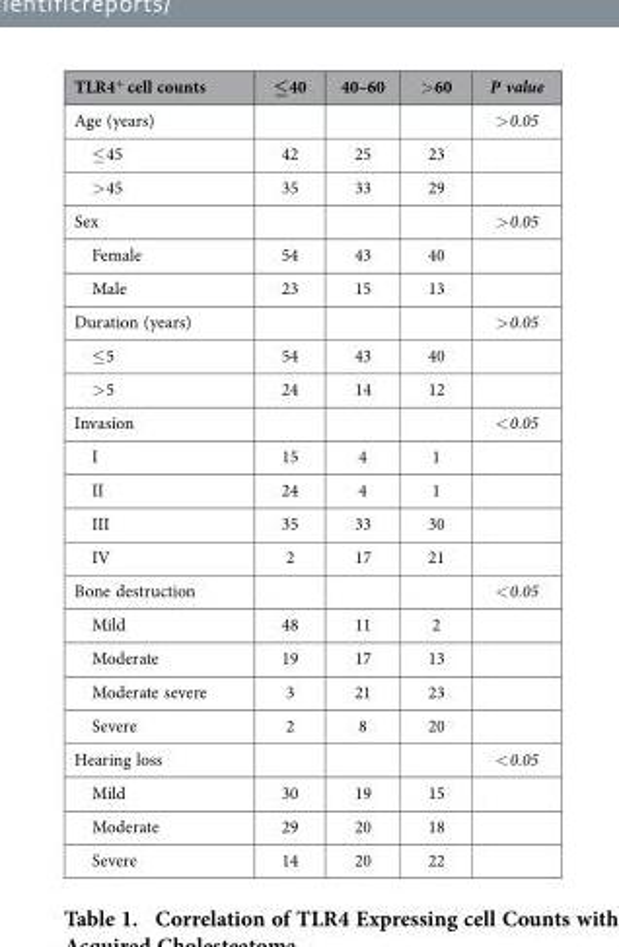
<table><thead><tr><td>TLR4<sup>+</sup> cell counts</td><td>≤40</td><td>40–60</td><td>&gt; 60</td><td>P value</td></tr></thead><tbody><tr><td>Age (years)</td><td></td><td></td><td></td><td>&gt; 0.05</td></tr><tr><td>≤ 45</td><td>42</td><td>25</td><td>23</td><td></td></tr><tr><td>&gt; 45</td><td>35</td><td>33</td><td>29</td><td></td></tr><tr><td>Sex</td><td></td><td></td><td></td><td>&gt; 0.05</td></tr><tr><td>Female</td><td>54</td><td>43</td><td>40</td><td></td></tr><tr><td>Male</td><td>23</td><td>15</td><td>13</td><td></td></tr><tr><td>Duration (years)</td><td></td><td></td><td></td><td>&gt; 0.05</td></tr><tr><td>≤ 5</td><td>54</td><td>43</td><td>40</td><td></td></tr><tr><td>&gt; 5</td><td>24</td><td>14</td><td>12</td><td></td></tr><tr><td>Invasion</td><td></td><td></td><td></td><td>&lt; 0.05</td></tr><tr><td>I</td><td>15</td><td>4</td><td>1</td><td></td></tr><tr><td>II</td><td>24</td><td>4</td><td>1</td><td></td></tr><tr><td>III</td><td>35</td><td>33</td><td>30</td><td></td></tr><tr><td>IV</td><td>2</td><td>17</td><td>21</td><td></td></tr><tr><td>Bone destruction</td><td></td><td></td><td></td><td>&lt; 0.05</td></tr><tr><td>Mild</td><td>48</td><td>11</td><td>2</td><td></td></tr><tr><td>Moderate</td><td>19</td><td>17</td><td>13</td><td></td></tr><tr><td>Moderate severe</td><td>3</td><td>21</td><td>23</td><td></td></tr><tr><td>Severe</td><td>2</td><td>8</td><td>20</td><td></td></tr><tr><td>Hearing loss</td><td></td><td></td><td></td><td>&lt; 0.05</td></tr><tr><td>Mild</td><td>30</td><td>19</td><td>15</td><td></td></tr><tr><td>Moderate</td><td>29</td><td>20</td><td>18</td><td></td></tr><tr><td>Severe</td><td>14</td><td>20</td><td>22</td><td></td></tr></tbody></table>